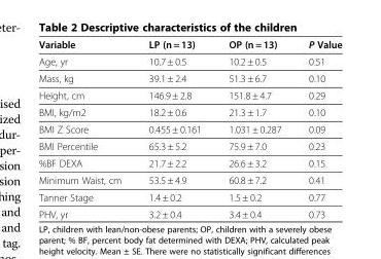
<table><thead><tr><td>Variable</td><td>LP (n = 13)</td><td>OP (n = 13)</td><td>P Value</td></tr></thead><tbody><tr><td>Age, yr</td><td>10.7 ± 0.5</td><td>10.2 ± 0.5</td><td>0.51</td></tr><tr><td>Mass, kg</td><td>39.1 ± 2.4</td><td>51.3 ± 6.7</td><td>0.10</td></tr><tr><td>Height, cm</td><td>146.9 ± 2.8</td><td>151.8 ± 4.7</td><td>0.29</td></tr><tr><td>BMI, kg/m2</td><td>18.2 ± 0.6</td><td>21.3 ± 1.7</td><td>0.10</td></tr><tr><td>BMI Z Score</td><td>0.455 ± 0.161</td><td>1.031 ± 0.287</td><td>0.09</td></tr><tr><td>BMI Percentile</td><td>65.3 ± 5.2</td><td>75.9 ± 7.0</td><td>0.23</td></tr><tr><td>%BF DEXA</td><td>21.7 ± 2.2</td><td>26.6 ± 3.2</td><td>0.15</td></tr><tr><td>Minimum Waist, cm</td><td>53.5 ± 4.9</td><td>60.8 ± 7.2</td><td>0.41</td></tr><tr><td>Tanner Stage</td><td>1.4 ± 0.2</td><td>1.5 ± 0.2</td><td>0.77</td></tr><tr><td>PHV, yr</td><td>3.2 ± 0.4</td><td>3.4 ± 0.4</td><td>0.73</td></tr></tbody></table>